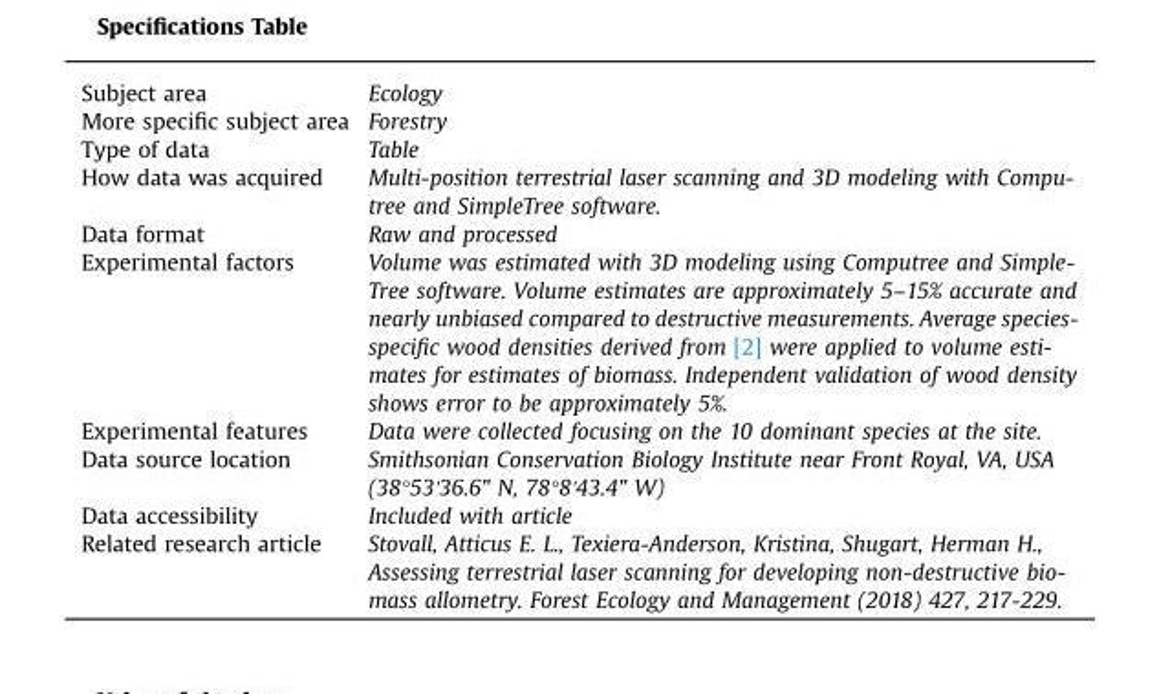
<table><tbody><tr><td>Subject area</td><td>Ecology</td></tr><tr><td>More specific subject area</td><td>Forestry</td></tr><tr><td>Type of data</td><td>Table</td></tr><tr><td>How data was acquired</td><td>Multi-position terrestrial laser scanning and 3D modeling with Compu- tree and SimpleTree software.</td></tr><tr><td>Data format</td><td>Raw and processed</td></tr><tr><td>Experimental factors</td><td>Volume was estimated with 3D modeling using Computree and Simple- Tree software. Volume estimates are approximately 5–15% accurate and nearly unbiased compared to destructive measurements. Average species- specific wood densities derived from [2] were applied to volume esti- mates for estimates of biomass. Independent validation of wood density shows error to be approximately 5%.</td></tr><tr><td>Experimental features</td><td>Data were collected focusing on the 10 dominant species at the site.</td></tr><tr><td>Data source location</td><td>Smithsonian Conservation Biology Institute near Front Royal, VA, USA (38°53&#x27;36.6&quot; N, 78°8&#x27;43.4&quot; W)</td></tr><tr><td>Data accessibility</td><td>Included with article</td></tr><tr><td>Related research article</td><td>Stovall, Atticus E. L., Texiera-Anderson, Kristina, Shugart, Herman H., Assessing terrestrial laser scanning for developing non-destructive bio- mass allometry. Forest Ecology and Management (2018) 427, 217-229.</td></tr></tbody></table>